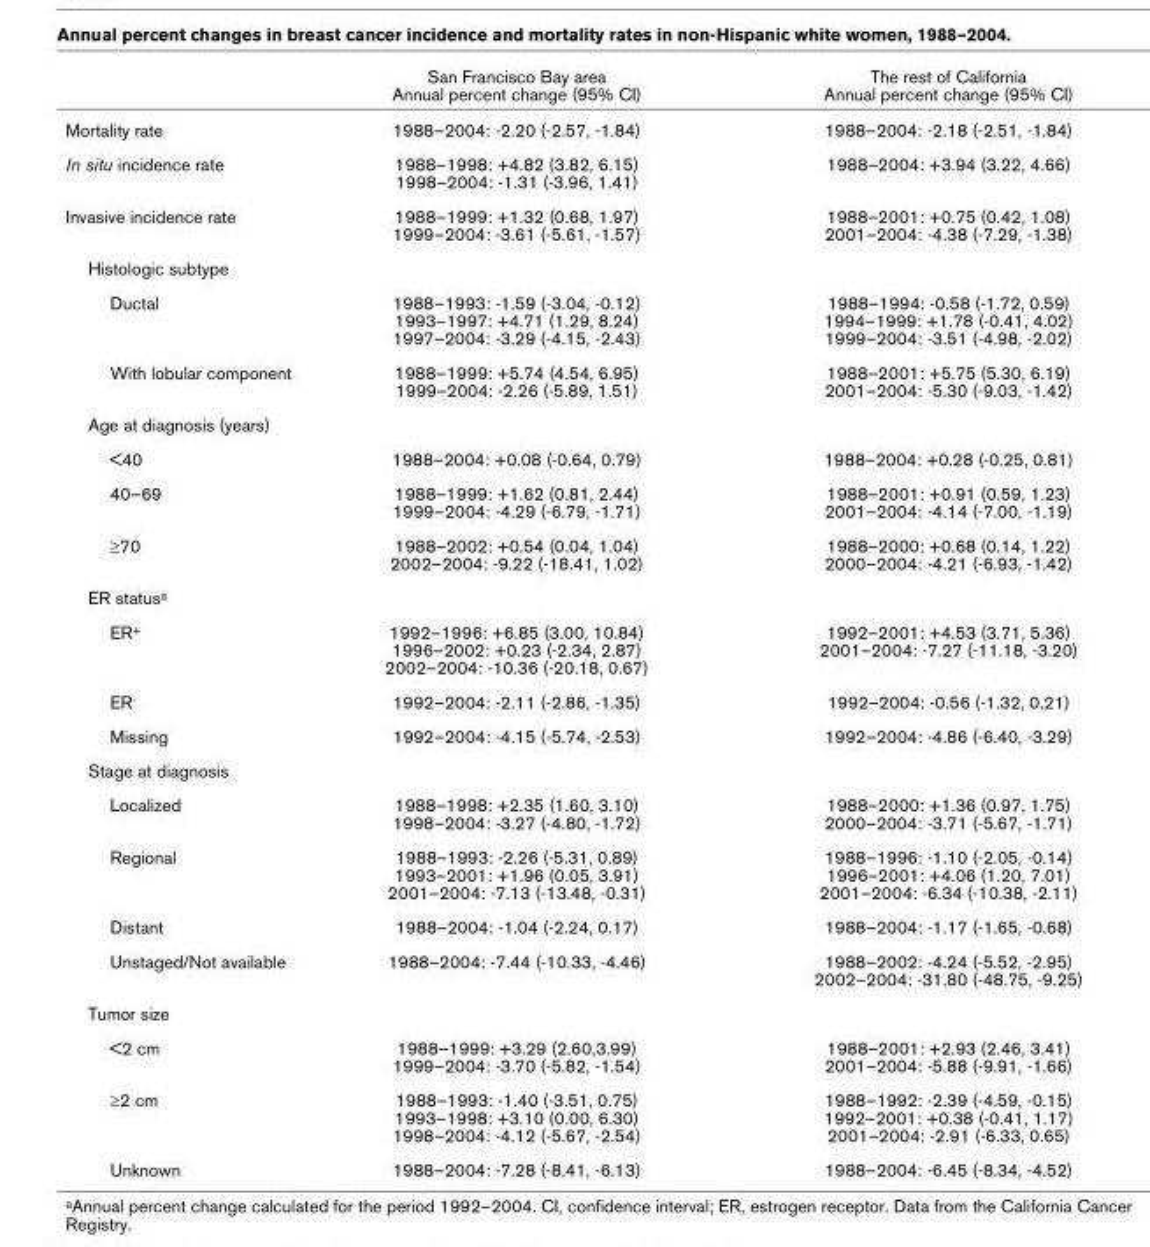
<table><thead><tr><td></td><td>San Francisco Bay area Annual percent change (95% CI)</td><td>The rest of California Annual percent change (95% CI)</td></tr></thead><tbody><tr><td>Mortality rate</td><td>1988–2004: -2.20 (-2.57, -1.84)</td><td>1988–2004: -2.18 (-2.51, -1.84)</td></tr><tr><td>In situ incidence rate</td><td>1988–1998: +4.82 (3.82, 6.15) 1998–2004: -1.31 (-3.96, 1.41)</td><td>1988–2004: +3.94 (3.22, 4.66)</td></tr><tr><td>Invasive incidence rate</td><td>1988–1999: +1.32 (0.68, 1.97) 1999–2004: -3.61 (-5.61, -1.57)</td><td>1988–2001: +0.75 (0.42, 1.08) 2001–2004: -4.38 (-7.29, -1.38)</td></tr><tr><td colspan="3">Histologic subtype</td></tr><tr><td>Ductal</td><td>1988–1993: -1.59 (-3.04, -0.12) 1993–1997: +4.71 (1.29, 8.24) 1997–2004: -3.29 (-4.15, -2.43)</td><td>1988–1994: -0.58 (-1.72, 0.59) 1994–1999: +1.78 (-0.41, 4.02) 1999–2004: -3.51 (-4.98, -2.02)</td></tr><tr><td>With lobular component</td><td>1988–1999: +5.74 (4.54, 6.95) 1999–2004: -2.26 (-5.89, 1.51)</td><td>1988–2001: +5.75 (5.30, 6.19) 2001–2004: -5.30 (-9.03, -1.42)</td></tr><tr><td colspan="3">Age at diagnosis (years)</td></tr><tr><td>&lt;40</td><td>1988–2004: +0.08 (-0.64, 0.79)</td><td>1988–2004: +0.28 (-0.25, 0.81)</td></tr><tr><td>40–69</td><td>1988–1999: +1.62 (0.81, 2.44) 1999–2004: -4.29 (-6.79, -1.71)</td><td>1988–2001: +0.91 (0.59, 1.23) 2001–2004: -4.14 (-7.00, -1.19)</td></tr><tr><td>≥70</td><td>1988–2002: +0.54 (0.04, 1.04) 2002–2004: -9.22 (-18.41, 1.02)</td><td>1988–2000: +0.68 (0.14, 1.22) 2000–2004: -4.21 (-6.93, -1.42)</td></tr><tr><td colspan="3">ER status<sup>a</sup></td></tr><tr><td>ER<sup>+</sup></td><td>1992–1996: +6.85 (3.00, 10.84) 1996–2002: +0.23 (-2.34, 2.87) 2002–2004: -10.36 (-20.18, 0.67)</td><td>1992–2001: +4.53 (3.71, 5.36) 2001–2004: -7.27 (-11.18, -3.20)</td></tr><tr><td>ER<sup>-</sup></td><td>1992–2004: -2.11 (-2.86, -1.35)</td><td>1992–2004: -0.56 (-1.32, 0.21)</td></tr><tr><td>Missing</td><td>1992–2004: -4.15 (-5.74, -2.53)</td><td>1992–2004: -4.86 (-6.40, -3.29)</td></tr><tr><td colspan="3">Stage at diagnosis</td></tr><tr><td>Localized</td><td>1988–1998: +2.35 (1.60, 3.10) 1998–2004: -3.27 (-4.80, -1.72)</td><td>1988–2000: +1.36 (0.97, 1.75) 2000–2004: -3.71 (-5.67, -1.71)</td></tr><tr><td>Regional</td><td>1988–1993: -2.26 (-5.31, 0.89) 1993–2001: +1.96 (0.05, 3.91) 2001–2004: -7.13 (-13.48, -0.31)</td><td>1988–1996: -1.10 (-2.05, -0.14) 1996–2001: +4.06 (1.20, 7.01) 2001–2004: -6.34 (-10.38, -2.11)</td></tr><tr><td>Distant</td><td>1988–2004: -1.04 (-2.24, 0.17)</td><td>1988–2004: -1.17 (-1.65, -0.68)</td></tr><tr><td>Unstaged/Not available</td><td>1988–2004: -7.44 (-10.33, -4.46)</td><td>1988–2002: -4.24 (-5.52, -2.95) 2002–2004: -31.80 (-48.75, -9.25)</td></tr><tr><td colspan="3">Tumor size</td></tr><tr><td>&lt;2 cm</td><td>1988–1999: +3.29 (2.60,3.99) 1999–2004: -3.70 (-5.82, -1.54)</td><td>1988–2001: +2.93 (2.46, 3.41) 2001–2004: -5.88 (-9.91, -1.66)</td></tr><tr><td>≥2 cm</td><td>1988–1993: -1.40 (-3.51, 0.75) 1993–1998: +3.10 (0.00, 6.30) 1998–2004: -4.12 (-5.67, -2.54)</td><td>1988–1992: -2.39 (-4.59, -0.15) 1992–2001: +0.38 (-0.41, 1.17) 2001–2004: -2.91 (-6.33, 0.65)</td></tr><tr><td>Unknown</td><td>1988–2004: -7.28 (-8.41, -6.13)</td><td>1988–2004: -6.45 (-8.34, -4.52)</td></tr></tbody></table>